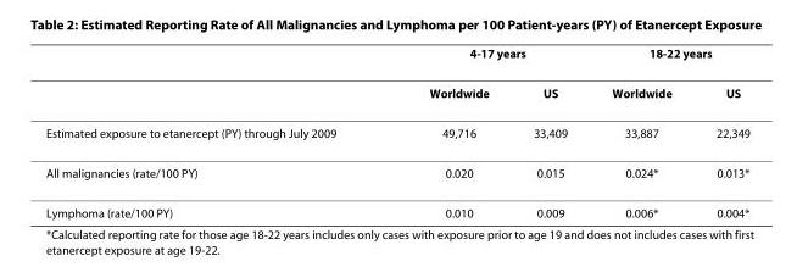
<table><thead><tr><td rowspan="2"></td><td colspan="2">4-17 years</td><td colspan="2">18-22 years</td></tr><tr><td>Worldwide</td><td>US</td><td>Worldwide</td><td>US</td></tr></thead><tbody><tr><td>Estimated exposure to etanercept (PY) through July 2009</td><td>49,716</td><td>33,409</td><td>33,887</td><td>22,349</td></tr><tr><td>All malignancies (rate/100 PY)</td><td>0.020</td><td>0.015</td><td>0.024*</td><td>0.013*</td></tr><tr><td>Lymphoma (rate/100 PY)</td><td>0.010</td><td>0.009</td><td>0.006*</td><td>0.004*</td></tr></tbody></table>